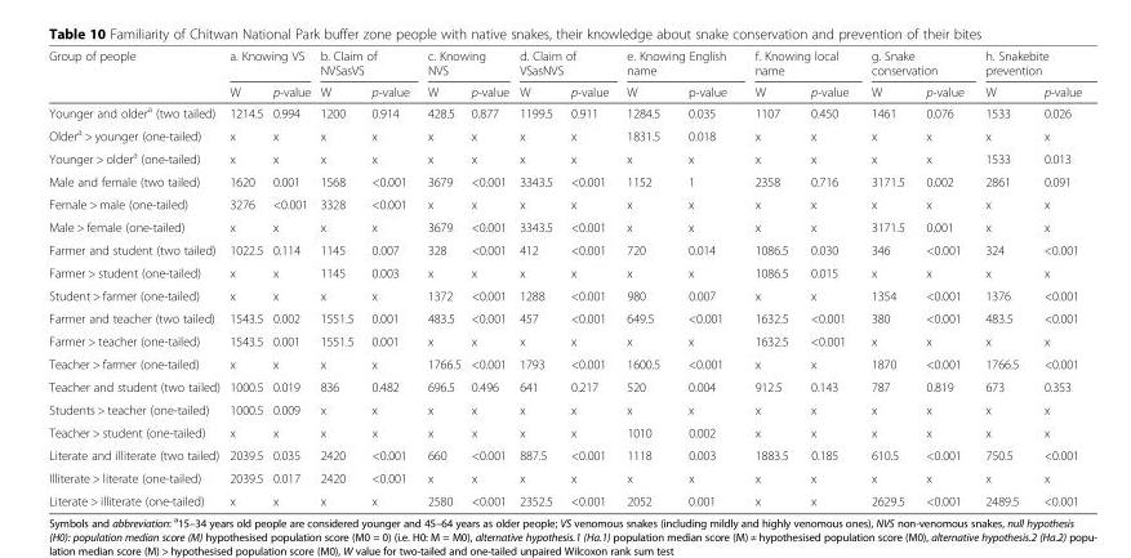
<table><thead><tr><td rowspan="2">Group of people</td><td colspan="2">a. Knowing VS</td><td colspan="2">b. Claim of NVSasVS</td><td colspan="2">c. Knowing NVS</td><td colspan="2">d. Claim of VSasNVS</td><td colspan="2">e. Knowing English name</td><td colspan="2">f. Knowing local name</td><td colspan="2">g. Snake conservation</td><td colspan="2">h. Snakebite prevention</td></tr><tr><td>W</td><td>p-value</td><td>W</td><td>p-value</td><td>W</td><td>p-value</td><td>W</td><td>p-value</td><td>W</td><td>p-value</td><td>W</td><td>p-value</td><td>W</td><td>p-value</td><td>W</td><td>p-value</td></tr></thead><tbody><tr><td>Younger and older<sup>a</sup> (two tailed)</td><td>1214.5</td><td>0.994</td><td>1200</td><td>0.914</td><td>428.5</td><td>0.877</td><td>1199.5</td><td>0.911</td><td>1284.5</td><td>0.035</td><td>1107</td><td>0.450</td><td>1461</td><td>0.076</td><td>1533</td><td>0.026</td></tr><tr><td>Older<sup>a</sup> &gt; younger (one-tailed)</td><td>x</td><td>x</td><td>x</td><td>x</td><td>x</td><td>x</td><td>x</td><td>x</td><td>1831.5</td><td>0.018</td><td>x</td><td>x</td><td>x</td><td>x</td><td>x</td><td>x</td></tr><tr><td>Younger &gt; older<sup>a</sup> (one-tailed)</td><td>x</td><td>x</td><td>x</td><td>x</td><td>x</td><td>x</td><td>x</td><td>x</td><td>x</td><td>x</td><td>x</td><td>x</td><td>x</td><td>x</td><td>1533</td><td>0.013</td></tr><tr><td>Male and female (two tailed)</td><td>1620</td><td>0.001</td><td>1568</td><td>&lt;0.001</td><td>3679</td><td>&lt;0.001</td><td>3343.5</td><td>&lt;0.001</td><td>1152</td><td>1</td><td>2358</td><td>0.716</td><td>3171.5</td><td>0.002</td><td>2861</td><td>0.091</td></tr><tr><td>Female &gt; male (one-tailed)</td><td>3276</td><td>&lt;0.001</td><td>3328</td><td>&lt;0.001</td><td>x</td><td>x</td><td>x</td><td>x</td><td>x</td><td>x</td><td>x</td><td>x</td><td>x</td><td>x</td><td>x</td><td>x</td></tr><tr><td>Male &gt; female (one-tailed)</td><td>x</td><td>x</td><td>x</td><td>x</td><td>3679</td><td>&lt;0.001</td><td>3343.5</td><td>&lt;0.001</td><td>x</td><td>x</td><td>x</td><td>x</td><td>3171.5</td><td>0.001</td><td>x</td><td>x</td></tr><tr><td>Farmer and student (two tailed)</td><td>1022.5</td><td>0.114</td><td>1145</td><td>0.007</td><td>328</td><td>&lt;0.001</td><td>412</td><td>&lt;0.001</td><td>720</td><td>0.014</td><td>1086.5</td><td>0.030</td><td>346</td><td>&lt;0.001</td><td>324</td><td>&lt;0.001</td></tr><tr><td>Farmer &gt; student (one-tailed)</td><td>x</td><td>x</td><td>1145</td><td>0.003</td><td>x</td><td>x</td><td>x</td><td>x</td><td>x</td><td>x</td><td>1086.5</td><td>0.015</td><td>x</td><td>x</td><td>x</td><td>x</td></tr><tr><td>Student &gt; farmer (one-tailed)</td><td>x</td><td>x</td><td>x</td><td>x</td><td>1372</td><td>&lt;0.001</td><td>1288</td><td>&lt;0.001</td><td>980</td><td>0.007</td><td>x</td><td>x</td><td>1354</td><td>&lt;0.001</td><td>1376</td><td>&lt;0.001</td></tr><tr><td>Farmer and teacher (two tailed)</td><td>1543.5</td><td>0.002</td><td>1551.5</td><td>0.001</td><td>483.5</td><td>&lt;0.001</td><td>457</td><td>&lt;0.001</td><td>649.5</td><td>&lt;0.001</td><td>1632.5</td><td>&lt;0.001</td><td>380</td><td>&lt;0.001</td><td>483.5</td><td>&lt;0.001</td></tr><tr><td>Farmer &gt; teacher (one-tailed)</td><td>1543.5</td><td>0.001</td><td>1551.5</td><td>0.001</td><td>x</td><td>x</td><td>x</td><td>x</td><td>x</td><td>x</td><td>1632.5</td><td>&lt;0.001</td><td>x</td><td>x</td><td>x</td><td>x</td></tr><tr><td>Teacher &gt; farmer (one-tailed)</td><td>x</td><td>x</td><td>x</td><td>x</td><td>1766.5</td><td>&lt;0.001</td><td>1793</td><td>&lt;0.001</td><td>1600.5</td><td>&lt;0.001</td><td>x</td><td>x</td><td>1870</td><td>&lt;0.001</td><td>1766.5</td><td>&lt;0.001</td></tr><tr><td>Teacher and student (two tailed)</td><td>1000.5</td><td>0.019</td><td>836</td><td>0.482</td><td>696.5</td><td>0.496</td><td>641</td><td>0.217</td><td>520</td><td>0.004</td><td>912.5</td><td>0.143</td><td>787</td><td>0.819</td><td>673</td><td>0.353</td></tr><tr><td>Students &gt; teacher (one-tailed)</td><td>1000.5</td><td>0.009</td><td>x</td><td>x</td><td>x</td><td>x</td><td>x</td><td>x</td><td>x</td><td>x</td><td>x</td><td>x</td><td>x</td><td>x</td><td>x</td><td>x</td></tr><tr><td>Teacher &gt; student (one-tailed)</td><td>x</td><td>x</td><td>x</td><td>x</td><td>x</td><td>x</td><td>x</td><td>x</td><td>1010</td><td>0.002</td><td>x</td><td>x</td><td>x</td><td>x</td><td>x</td><td>x</td></tr><tr><td>Literate and illiterate (two tailed)</td><td>2039.5</td><td>0.035</td><td>2420</td><td>&lt;0.001</td><td>660</td><td>&lt;0.001</td><td>887.5</td><td>&lt;0.001</td><td>1118</td><td>0.003</td><td>1883.5</td><td>0.185</td><td>610.5</td><td>&lt;0.001</td><td>750.5</td><td>&lt;0.001</td></tr><tr><td>Illiterate &gt; literate (one-tailed)</td><td>2039.5</td><td>0.017</td><td>2420</td><td>&lt;0.001</td><td>x</td><td>x</td><td>x</td><td>x</td><td>x</td><td>x</td><td>x</td><td>x</td><td>x</td><td>x</td><td>x</td><td>x</td></tr><tr><td>Literate &gt; illiterate (one-tailed)</td><td>x</td><td>x</td><td>x</td><td>x</td><td>2580</td><td>&lt;0.001</td><td>2352.5</td><td>&lt;0.001</td><td>2052</td><td>0.001</td><td>x</td><td>x</td><td>2629.5</td><td>&lt;0.001</td><td>2489.5</td><td>&lt;0.001</td></tr></tbody></table>